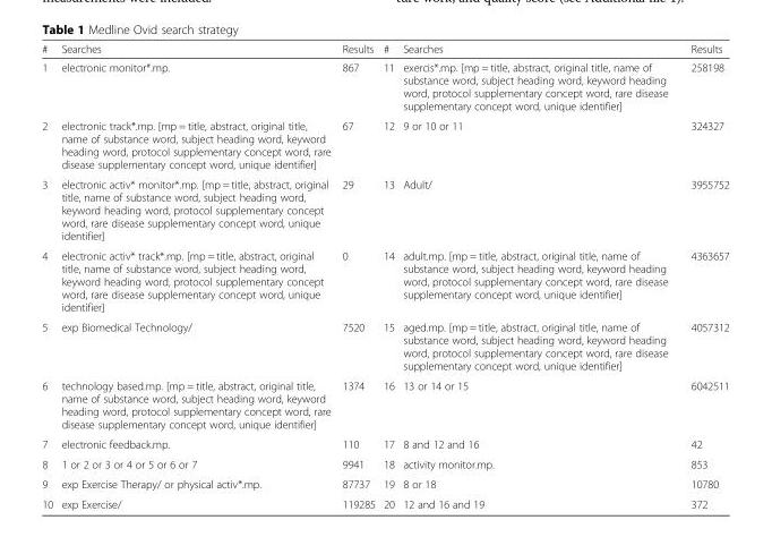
<table><thead><tr><td>#</td><td>Searches</td><td>Results</td><td>#</td><td>Searches</td><td>Results</td></tr></thead><tbody><tr><td>1</td><td>electronic monitor*.mp.</td><td>867</td><td>11</td><td>exercis*.mp. [mp = title, abstract, original title, name of substance word, subject heading word, keyword heading word, protocol supplementary concept word, rare disease supplementary concept word, unique identifier]</td><td>258198</td></tr><tr><td>2</td><td>electronic track*.mp. [mp = title, abstract, original title, name of substance word, subject heading word, keyword heading word, protocol supplementary concept word, rare disease supplementary concept word, unique identifier]</td><td>67</td><td>12</td><td>9 or 10 or 11</td><td>324327</td></tr><tr><td>3</td><td>electronic activ* monitor*.mp. [mp = title, abstract, original title, name of substance word, subject heading word, keyword heading word, protocol supplementary concept word, rare disease supplementary concept word, unique identifier]</td><td>29</td><td>13</td><td>Adult/</td><td>3955752</td></tr><tr><td>4</td><td>electronic activ* track*.mp. [mp = title, abstract, original title, name of substance word, subject heading word, keyword heading word, protocol supplementary concept word, rare disease supplementary concept word, unique identifier]</td><td>0</td><td>14</td><td>adult.mp. [mp = title, abstract, original title, name of substance word, subject heading word, keyword heading word, protocol supplementary concept word, rare disease supplementary concept word, unique identifier]</td><td>4363657</td></tr><tr><td>5</td><td>exp Biomedical Technology/</td><td>7520</td><td>15</td><td>aged.mp. [mp = title, abstract, original title, name of substance word, subject heading word, keyword heading word, protocol supplementary concept word, rare disease supplementary concept word, unique identifier]</td><td>4057312</td></tr><tr><td>6</td><td>technology based.mp. [mp = title, abstract, original title, name of substance word, subject heading word, keyword heading word, protocol supplementary concept word, rare disease supplementary concept word, unique identifier]</td><td>1374</td><td>16</td><td>13 or 14 or 15</td><td>6042511</td></tr><tr><td>7</td><td>electronic feedback.mp.</td><td>110</td><td>17</td><td>8 and 12 and 16</td><td>42</td></tr><tr><td>8</td><td>1 or 2 or 3 or 4 or 5 or 6 or 7</td><td>9941</td><td>18</td><td>activity monitor.mp.</td><td>853</td></tr><tr><td>9</td><td>exp Exercise Therapy/ or physical activ*.mp.</td><td>87737</td><td>19</td><td>8 or 18</td><td>10780</td></tr><tr><td>10</td><td>exp Exercise/</td><td>119285</td><td>20</td><td>12 and 16 and 19</td><td>372</td></tr></tbody></table>